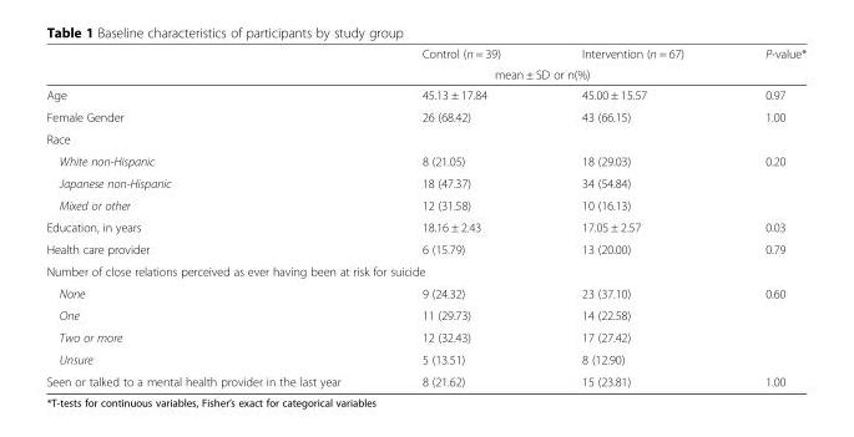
<table><thead><tr><td rowspan="2"></td><td>Control (n = 39)</td><td>Intervention (n = 67)</td><td rowspan="2">P-value*</td></tr><tr><td colspan="2">mean ± SD or n(%)</td></tr></thead><tbody><tr><td>Age</td><td>45.13 ± 17.84</td><td>45.00 ± 15.57</td><td>0.97</td></tr><tr><td>Female Gender</td><td>26 (68.42)</td><td>43 (66.15)</td><td>1.00</td></tr><tr><td colspan="4">Race</td></tr><tr><td>White non-Hispanic</td><td>8 (21.05)</td><td>18 (29.03)</td><td rowspan="3">0.20</td></tr><tr><td>Japanese non-Hispanic</td><td>18 (47.37)</td><td>34 (54.84)</td></tr><tr><td>Mixed or other</td><td>12 (31.58)</td><td>10 (16.13)</td></tr><tr><td>Education, in years</td><td>18.16 ± 2.43</td><td>17.05 ± 2.57</td><td>0.03</td></tr><tr><td>Health care provider</td><td>6 (15.79)</td><td>13 (20.00)</td><td>0.79</td></tr><tr><td colspan="4">Number of close relations perceived as ever having been at risk for suicide</td></tr><tr><td>None</td><td>9 (24.32)</td><td>23 (37.10)</td><td rowspan="4">0.60</td></tr><tr><td>One</td><td>11 (29.73)</td><td>14 (22.58)</td></tr><tr><td>Two or more</td><td>12 (32.43)</td><td>17 (27.42)</td></tr><tr><td>Unsure</td><td>5 (13.51)</td><td>8 (12.90)</td></tr><tr><td>Seen or talked to a mental health provider in the last year</td><td>8 (21.62)</td><td>15 (23.81)</td><td>1.00</td></tr></tbody></table>